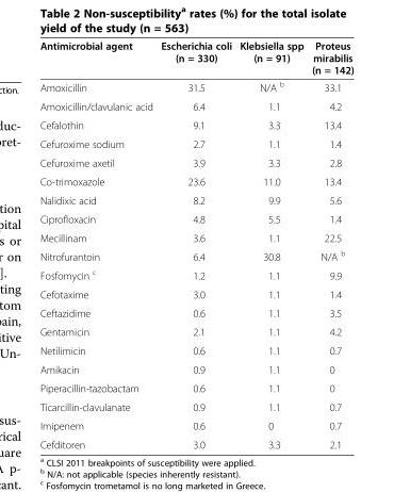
<table><thead><tr><td>Antimicrobial agent</td><td>Escherichia coli (n = 330)</td><td>Klebsiella spp (n = 91)</td><td>Proteus mirabilis (n = 142)</td></tr></thead><tbody><tr><td>Amoxicillin</td><td>31.5</td><td>N/Α b</td><td>33.1</td></tr><tr><td>Amoxicillin/clavulanic acid</td><td>6.4</td><td>1.1</td><td>4.2</td></tr><tr><td>Cefalothin</td><td>9.1</td><td>3.3</td><td>13.4</td></tr><tr><td>Cefuroxime sodium</td><td>2.7</td><td>1.1</td><td>1.4</td></tr><tr><td>Cefuroxime axetil</td><td>3.9</td><td>3.3</td><td>2.8</td></tr><tr><td>Co-trimoxazole</td><td>23.6</td><td>11.0</td><td>13.4</td></tr><tr><td>Nalidixic acid</td><td>8.2</td><td>9.9</td><td>5.6</td></tr><tr><td>Ciprofloxacin</td><td>4.8</td><td>5.5</td><td>1.4</td></tr><tr><td>Mecillinam</td><td>3.6</td><td>1.1</td><td>22.5</td></tr><tr><td>Nitrofurantoin</td><td>6.4</td><td>30.8</td><td>N/Α b</td></tr><tr><td>Fosfomycin <sup>c</sup></td><td>1.2</td><td>1.1</td><td>9.9</td></tr><tr><td>Cefotaxime</td><td>3.0</td><td>1.1</td><td>1.4</td></tr><tr><td>Ceftazidime</td><td>0.6</td><td>1.1</td><td>3.5</td></tr><tr><td>Gentamicin</td><td>2.1</td><td>1.1</td><td>4.2</td></tr><tr><td>Netilimicin</td><td>0.6</td><td>1.1</td><td>0.7</td></tr><tr><td>Amikacin</td><td>0.9</td><td>1.1</td><td>0</td></tr><tr><td>Piperacillin-tazobactam</td><td>0.6</td><td>1.1</td><td>0</td></tr><tr><td>Ticarcillin-clavulanate</td><td>0.9</td><td>1.1</td><td>0.7</td></tr><tr><td>Imipenem</td><td>0.6</td><td>0</td><td>0.7</td></tr><tr><td>Cefditoren</td><td>3.0</td><td>3.3</td><td>2.1</td></tr></tbody></table>